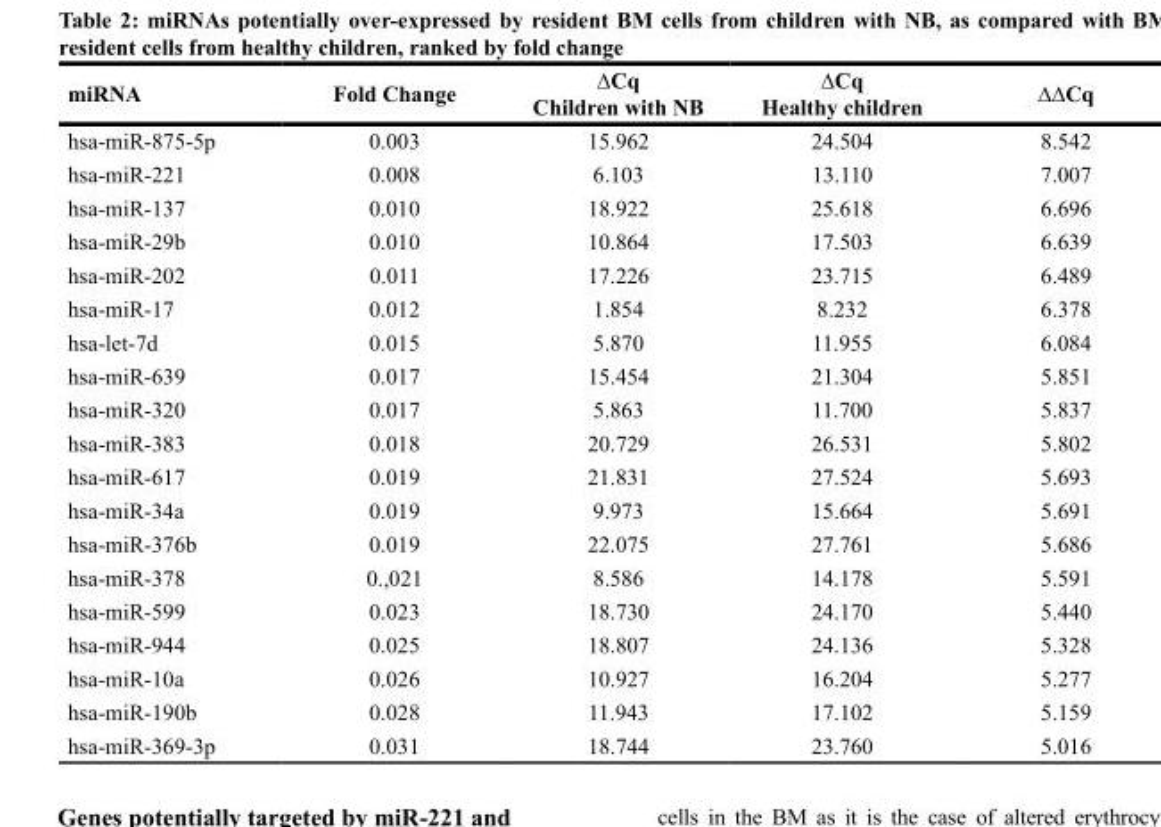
<table><thead><tr><td>miRNA</td><td>Fold Change</td><td>∆Cq Children with NB</td><td>∆Cq Healthy children</td><td>∆∆Cq</td></tr></thead><tbody><tr><td>hsa-miR-875-5p</td><td>0.003</td><td>15.962</td><td>24.504</td><td>8.542</td></tr><tr><td>hsa-miR-221</td><td>0.008</td><td>6.103</td><td>13.110</td><td>7.007</td></tr><tr><td>hsa-miR-137</td><td>0.010</td><td>18.922</td><td>25.618</td><td>6.696</td></tr><tr><td>hsa-miR-29b</td><td>0.010</td><td>10.864</td><td>17.503</td><td>6.639</td></tr><tr><td>hsa-miR-202</td><td>0.011</td><td>17.226</td><td>23.715</td><td>6.489</td></tr><tr><td>hsa-miR-17</td><td>0.012</td><td>1.854</td><td>8.232</td><td>6.378</td></tr><tr><td>hsa-let-7d</td><td>0.015</td><td>5.870</td><td>11.955</td><td>6.084</td></tr><tr><td>hsa-miR-639</td><td>0.017</td><td>15.454</td><td>21.304</td><td>5.851</td></tr><tr><td>hsa-miR-320</td><td>0.017</td><td>5.863</td><td>11.700</td><td>5.837</td></tr><tr><td>hsa-miR-383</td><td>0.018</td><td>20.729</td><td>26.531</td><td>5.802</td></tr><tr><td>hsa-miR-617</td><td>0.019</td><td>21.831</td><td>27.524</td><td>5.693</td></tr><tr><td>hsa-miR-34a</td><td>0.019</td><td>9.973</td><td>15.664</td><td>5.691</td></tr><tr><td>hsa-miR-376b</td><td>0.019</td><td>22.075</td><td>27.761</td><td>5.686</td></tr><tr><td>hsa-miR-378</td><td>0.,021</td><td>8.586</td><td>14.178</td><td>5.591</td></tr><tr><td>hsa-miR-599</td><td>0.023</td><td>18.730</td><td>24.170</td><td>5.440</td></tr><tr><td>hsa-miR-944</td><td>0.025</td><td>18.807</td><td>24.136</td><td>5.328</td></tr><tr><td>hsa-miR-10a</td><td>0.026</td><td>10.927</td><td>16.204</td><td>5.277</td></tr><tr><td>hsa-miR-190b</td><td>0.028</td><td>11.943</td><td>17.102</td><td>5.159</td></tr><tr><td>hsa-miR-369-3p</td><td>0.031</td><td>18.744</td><td>23.760</td><td>5.016</td></tr></tbody></table>